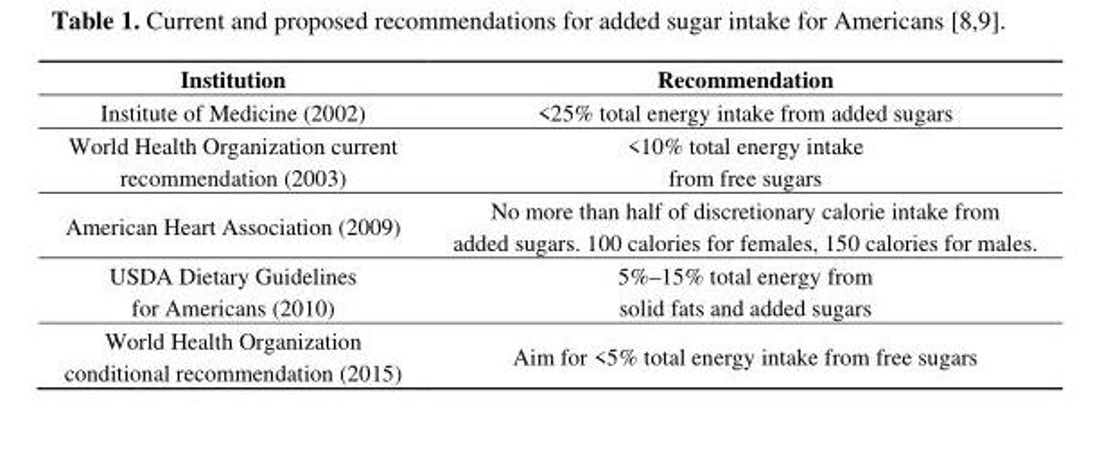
<table><thead><tr><td>Institution</td><td>Recommendation</td></tr></thead><tbody><tr><td>Institute of Medicine (2002)</td><td>&lt;25% total energy intake from added sugars</td></tr><tr><td>World Health Organization current recommendation (2003)</td><td>&lt;10% total energy intake from free sugars</td></tr><tr><td>American Heart Association (2009)</td><td>No more than half of discretionary calorie intake from added sugars. 100 calories for females, 150 calories for males.</td></tr><tr><td>USDA Dietary Guidelines for Americans (2010)</td><td>5%–15% total energy from solid fats and added sugars</td></tr><tr><td>World Health Organization conditional recommendation (2015)</td><td>Aim for &lt;5% total energy intake from free sugars</td></tr></tbody></table>